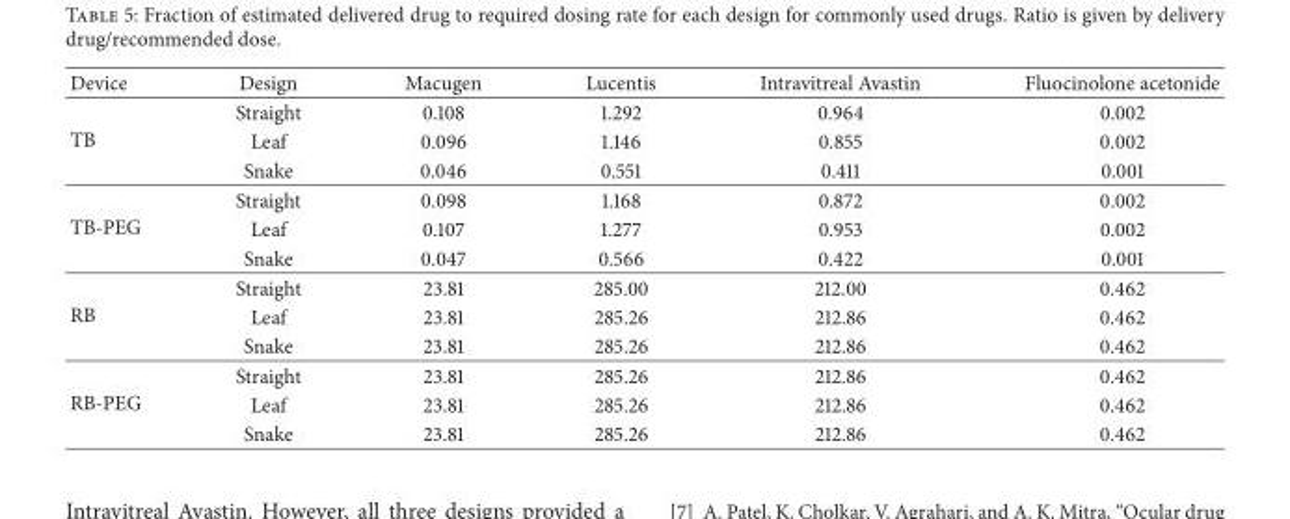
<table><thead><tr><td>Device</td><td>Design</td><td>Macugen</td><td>Lucentis</td><td>Intravitreal Avastin</td><td>Fluocinolone acetonide</td></tr></thead><tbody><tr><td rowspan="3">TB</td><td>Straight</td><td>0.108</td><td>1.292</td><td>0.964</td><td>0.002</td></tr><tr><td>Leaf</td><td>0.096</td><td>1.146</td><td>0.855</td><td>0.002</td></tr><tr><td>Snake</td><td>0.046</td><td>0.551</td><td>0.411</td><td>0.001</td></tr><tr><td rowspan="3">TB-PEG</td><td>Straight</td><td>0.098</td><td>1.168</td><td>0.872</td><td>0.002</td></tr><tr><td>Leaf</td><td>0.107</td><td>1.277</td><td>0.953</td><td>0.002</td></tr><tr><td>Snake</td><td>0.047</td><td>0.566</td><td>0.422</td><td>0.001</td></tr><tr><td rowspan="3">RB</td><td>Straight</td><td>23.81</td><td>285.00</td><td>212.00</td><td>0.462</td></tr><tr><td>Leaf</td><td>23.81</td><td>285.26</td><td>212.86</td><td>0.462</td></tr><tr><td>Snake</td><td>23.81</td><td>285.26</td><td>212.86</td><td>0.462</td></tr><tr><td rowspan="3">RB-PEG</td><td>Straight</td><td>23.81</td><td>285.26</td><td>212.86</td><td>0.462</td></tr><tr><td>Leaf</td><td>23.81</td><td>285.26</td><td>212.86</td><td>0.462</td></tr><tr><td>Snake</td><td>23.81</td><td>285.26</td><td>212.86</td><td>0.462</td></tr></tbody></table>